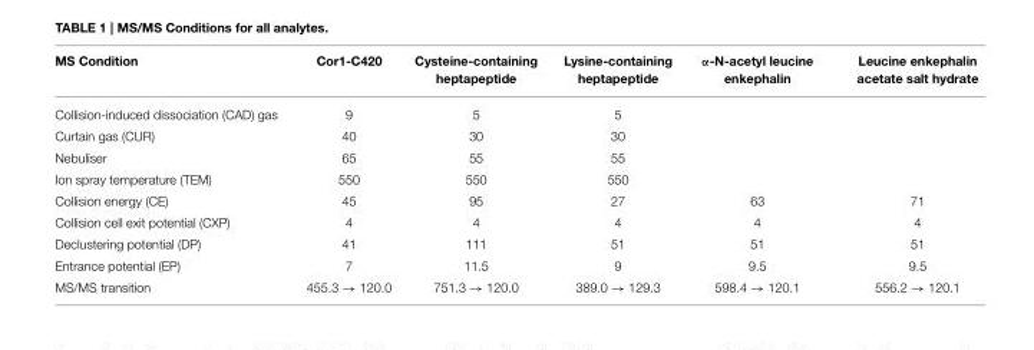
<table><thead><tr><td>MS Condition</td><td>Cor1-C420</td><td>Cysteine-containing heptapeptide</td><td>Lysine-containing heptapeptide</td><td>α-N-acetyl leucine enkephalin</td><td>Leucine enkephalin acetate salt hydrate</td></tr></thead><tbody><tr><td>Collision-induced dissociation (CAD) gas</td><td>9</td><td>5</td><td>5</td><td></td><td></td></tr><tr><td>Curtain gas (CUR)</td><td>40</td><td>30</td><td>30</td><td></td><td></td></tr><tr><td>Nebuliser</td><td>65</td><td>55</td><td>55</td><td></td><td></td></tr><tr><td>Ion spray temperature (TEM)</td><td>550</td><td>550</td><td>550</td><td></td><td></td></tr><tr><td>Collision energy (CE)</td><td>45</td><td>95</td><td>27</td><td>63</td><td>71</td></tr><tr><td>Collision cell exit potential (CXP)</td><td>4</td><td>4</td><td>4</td><td>4</td><td>4</td></tr><tr><td>Declustering potential (DP)</td><td>41</td><td>111</td><td>51</td><td>51</td><td>51</td></tr><tr><td>Entrance potential (EP)</td><td>7</td><td>11.5</td><td>9</td><td>9.5</td><td>9.5</td></tr><tr><td>MS/MS transition</td><td>455.3 → 120.0</td><td>751.3 → 120.0</td><td>389.0 → 129.3</td><td>598.4 → 120.1</td><td>556.2 → 120.1</td></tr></tbody></table>